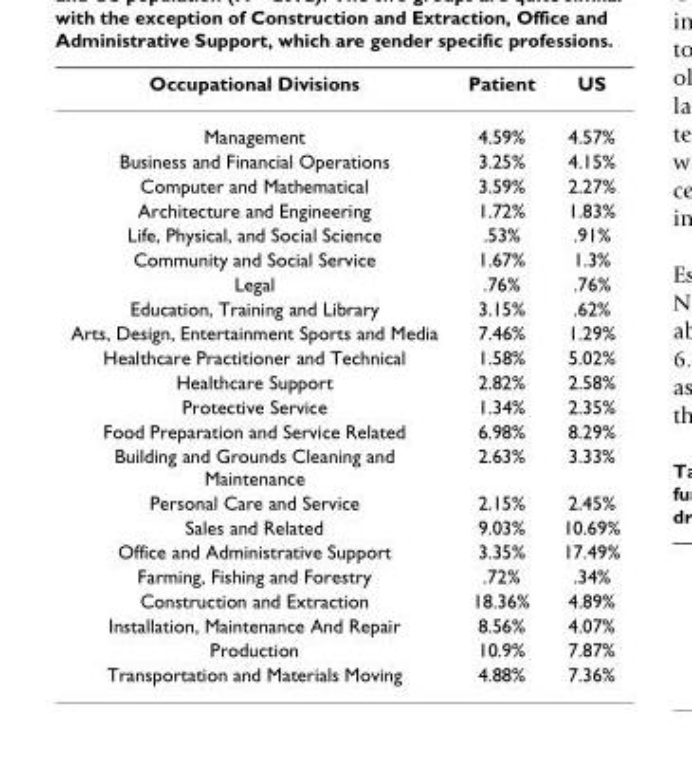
<table><thead><tr><td>Occupational Divisions</td><td>Patient</td><td>US</td></tr></thead><tbody><tr><td>Management</td><td>4.59%</td><td>4.57%</td></tr><tr><td>Business and Financial Operations</td><td>3.25%</td><td>4.15%</td></tr><tr><td>Computer and Mathematical</td><td>3.59%</td><td>2.27%</td></tr><tr><td>Architecture and Engineering</td><td>1.72%</td><td>1.83%</td></tr><tr><td>Life, Physical, and Social Science</td><td>.53%</td><td>.91%</td></tr><tr><td>Community and Social Service</td><td>1.67%</td><td>1.3%</td></tr><tr><td>Legal</td><td>.76%</td><td>.76%</td></tr><tr><td>Education, Training and Library</td><td>3.15%</td><td>.62%</td></tr><tr><td>Arts, Design, Entertainment Sports and Media</td><td>7.46%</td><td>1.29%</td></tr><tr><td>Healthcare Practitioner and Technical</td><td>1.58%</td><td>5.02%</td></tr><tr><td>Healthcare Support</td><td>2.82%</td><td>2.58%</td></tr><tr><td>Protective Service</td><td>1.34%</td><td>2.35%</td></tr><tr><td>Food Preparation and Service Related</td><td>6.98%</td><td>8.29%</td></tr><tr><td>Building and Grounds Cleaning and Maintenance</td><td>2.63%</td><td>3.33%</td></tr><tr><td>Personal Care and Service</td><td>2.15%</td><td>2.45%</td></tr><tr><td>Sales and Related</td><td>9.03%</td><td>10.69%</td></tr><tr><td>Office and Administrative Support</td><td>3.35%</td><td>17.49%</td></tr><tr><td>Farming, Fishing and Forestry</td><td>.72%</td><td>.34%</td></tr><tr><td>Construction and Extraction</td><td>18.36%</td><td>4.89%</td></tr><tr><td>Installation, Maintenance And Repair</td><td>8.56%</td><td>4.07%</td></tr><tr><td>Production</td><td>10.9%</td><td>7.87%</td></tr><tr><td>Transportation and Materials Moving</td><td>4.88%</td><td>7.36%</td></tr></tbody></table>